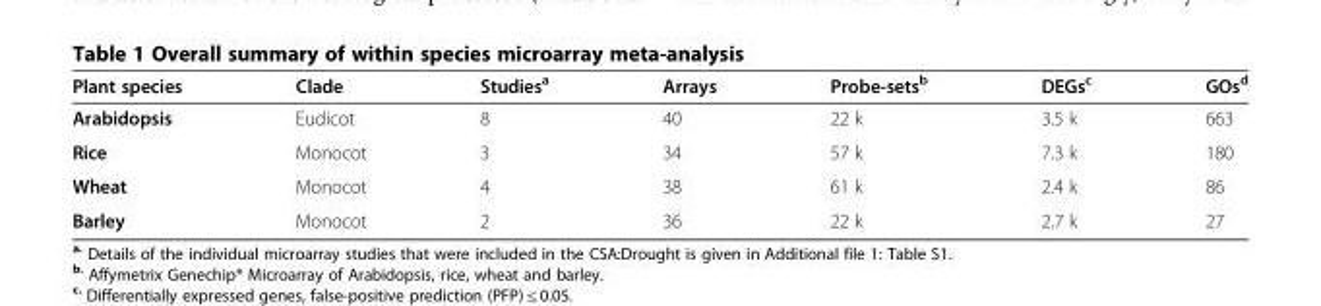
<table><thead><tr><td>Plant species</td><td>Clade</td><td>Studies<sup>a</sup></td><td>Arrays</td><td>Probe-sets<sup>b</sup></td><td>DEGs<sup>c</sup></td><td>GOs<sup>d</sup></td></tr></thead><tbody><tr><td>Arabidopsis</td><td>Eudicot</td><td>8</td><td>40</td><td>22 k</td><td>3.5 k</td><td>663</td></tr><tr><td>Rice</td><td>Monocot</td><td>3</td><td>34</td><td>57 k</td><td>7.3 k</td><td>180</td></tr><tr><td>Wheat</td><td>Monocot</td><td>4</td><td>38</td><td>61 k</td><td>2.4 k</td><td>86</td></tr><tr><td>Barley</td><td>Monocot</td><td>2</td><td>36</td><td>22 k</td><td>2.7 k</td><td>27</td></tr></tbody></table>